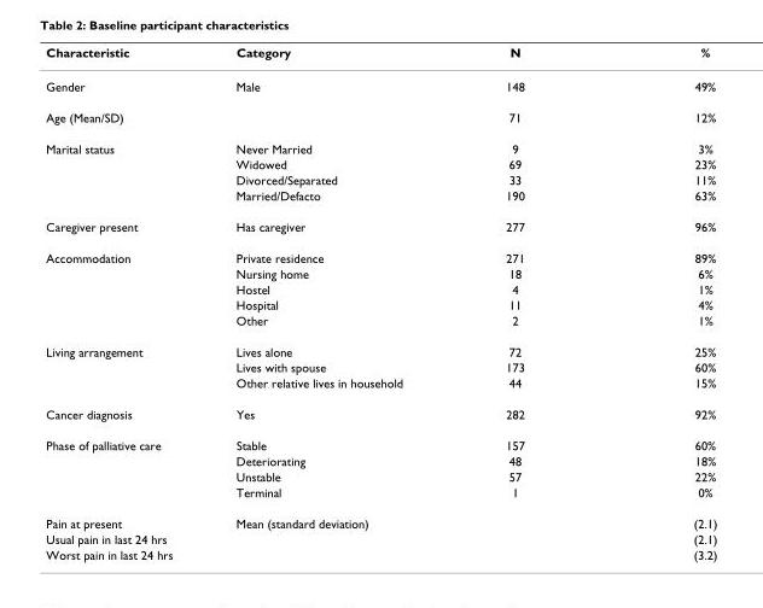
<table><thead><tr><td>Characteristic</td><td>Category</td><td>N</td><td>%</td></tr></thead><tbody><tr><td>Gender</td><td>Male</td><td>148</td><td>49%</td></tr><tr><td>Age (Mean/SD)</td><td></td><td>71</td><td>12%</td></tr><tr><td rowspan="4">Marital status</td><td>Never Married</td><td>9</td><td>3%</td></tr><tr><td>Widowed</td><td>69</td><td>23%</td></tr><tr><td>Divorced/Separated</td><td>33</td><td>11%</td></tr><tr><td>Married/Defacto</td><td>190</td><td>63%</td></tr><tr><td>Caregiver present</td><td>Has caregiver</td><td>277</td><td>96%</td></tr><tr><td rowspan="5">Accommodation</td><td>Private residence</td><td>271</td><td>89%</td></tr><tr><td>Nursing home</td><td>18</td><td>6%</td></tr><tr><td>Hostel</td><td>4</td><td>1%</td></tr><tr><td>Hospital</td><td>11</td><td>4%</td></tr><tr><td>Other</td><td>2</td><td>1%</td></tr><tr><td rowspan="3">Living arrangement</td><td>Lives alone</td><td>72</td><td>25%</td></tr><tr><td>Lives with spouse</td><td>173</td><td>60%</td></tr><tr><td>Other relative lives in household</td><td>44</td><td>15%</td></tr><tr><td>Cancer diagnosis</td><td>Yes</td><td>282</td><td>92%</td></tr><tr><td rowspan="4">Phase of palliative care</td><td>Stable</td><td>157</td><td>60%</td></tr><tr><td>Deteriorating</td><td>48</td><td>18%</td></tr><tr><td>Unstable</td><td>57</td><td>22%</td></tr><tr><td>Terminal</td><td>1</td><td>0%</td></tr><tr><td>Pain at present</td><td>Mean (standard deviation)</td><td></td><td>(2.1)</td></tr><tr><td>Usual pain in last 24 hrs</td><td></td><td></td><td>(2.1)</td></tr><tr><td>Worst pain in last 24 hrs</td><td></td><td></td><td>(3.2)</td></tr></tbody></table>